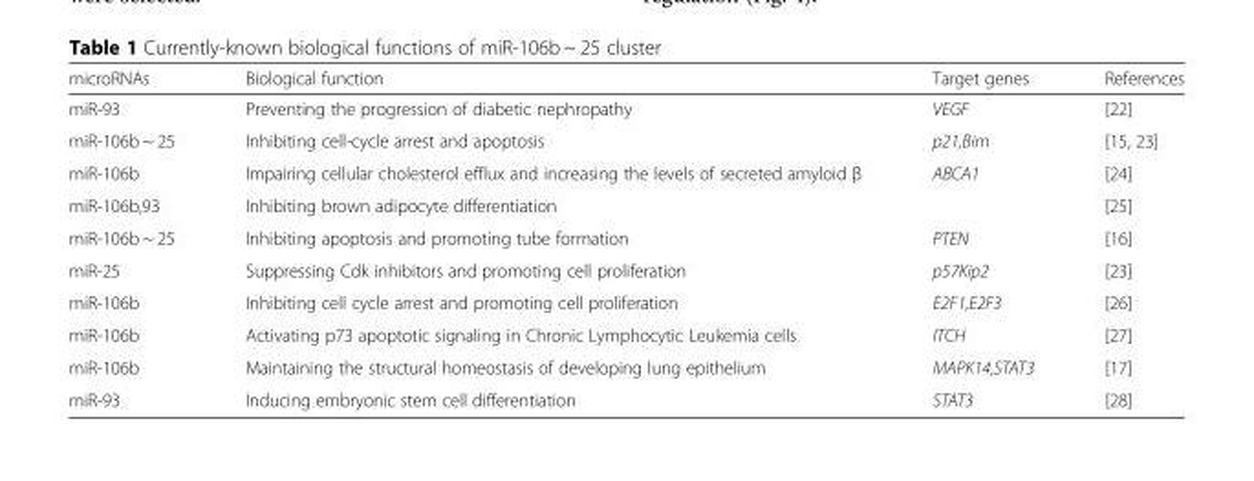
<table><thead><tr><td>microRNAs</td><td>Biological function</td><td>Target genes</td><td>References</td></tr></thead><tbody><tr><td>miR-93</td><td>Preventing the progression of diabetic nephropathy</td><td>VEGF</td><td>[22]</td></tr><tr><td>miR-106b ~ 25</td><td>Inhibiting cell-cycle arrest and apoptosis</td><td>p21,Bim</td><td>[15, 23]</td></tr><tr><td>miR-106b</td><td>Impairing cellular cholesterol efflux and increasing the levels of secreted amyloid β</td><td>ABCA1</td><td>[24]</td></tr><tr><td>miR-106b,93</td><td>Inhibiting brown adipocyte differentiation</td><td></td><td>[25]</td></tr><tr><td>miR-106b ~ 25</td><td>Inhibiting apoptosis and promoting tube formation</td><td>PTEN</td><td>[16]</td></tr><tr><td>miR-25</td><td>Suppressing Cdk inhibitors and promoting cell proliferation</td><td>p57Kip2</td><td>[23]</td></tr><tr><td>miR-106b</td><td>Inhibiting cell cycle arrest and promoting cell proliferation</td><td>E2F1,E2F3</td><td>[26]</td></tr><tr><td>miR-106b</td><td>Activating p73 apoptotic signaling in Chronic Lymphocytic Leukemia cells</td><td>ITCH</td><td>[27]</td></tr><tr><td>miR-106b</td><td>Maintaining the structural homeostasis of developing lung epithelium</td><td>MAPK14,STAT3</td><td>[17]</td></tr><tr><td>miR-93</td><td>Inducing embryonic stem cell differentiation</td><td>STAT3</td><td>[28]</td></tr></tbody></table>